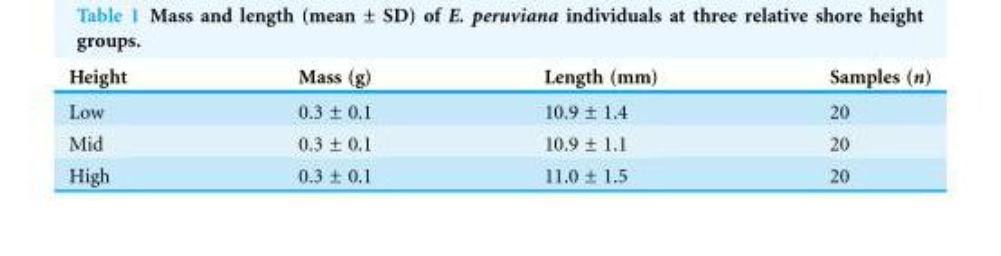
<table><thead><tr><td>Height</td><td>Mass (g)</td><td>Length (mm)</td><td>Samples (n)</td></tr></thead><tbody><tr><td>Low</td><td>0.3 ± 0.1</td><td>10.9 ± 1.4</td><td>20</td></tr><tr><td>Mid</td><td>0.3 ± 0.1</td><td>10.9 ± 1.1</td><td>20</td></tr><tr><td>High</td><td>0.3 ± 0.1</td><td>11.0 ± 1.5</td><td>20</td></tr></tbody></table>